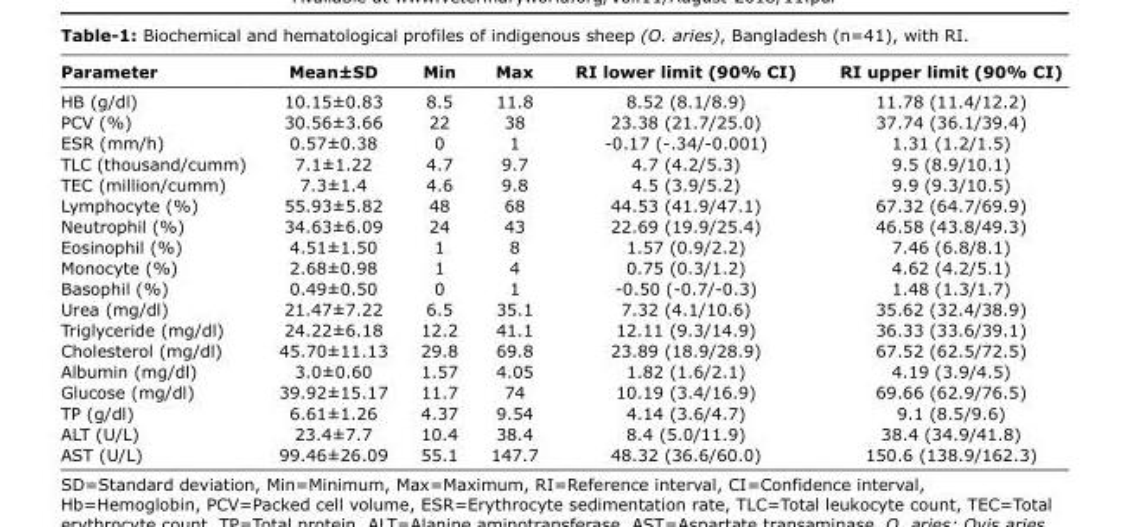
<table><thead><tr><td>Parameter</td><td>Mean±SD</td><td>Min</td><td>Max</td><td>RI lower limit (90% CI)</td><td>RI upper limit (90% CI)</td></tr></thead><tbody><tr><td>HB (g/dl)</td><td>10.15±0.83</td><td>8.5</td><td>11.8</td><td>8.52 (8.1/8.9)</td><td>11.78 (11.4/12.2)</td></tr><tr><td>PCV (%)</td><td>30.56±3.66</td><td>22</td><td>38</td><td>23.38 (21.7/25.0)</td><td>37.74 (36.1/39.4)</td></tr><tr><td>ESR (mm/h)</td><td>0.57±0.38</td><td>0</td><td>1</td><td>-0.17 (-.34/-0.001)</td><td>1.31 (1.2/1.5)</td></tr><tr><td>TLC (thousand/cumm)</td><td>7.1±1.22</td><td>4.7</td><td>9.7</td><td>4.7 (4.2/5.3)</td><td>9.5 (8.9/10.1)</td></tr><tr><td>TEC (million/cumm)</td><td>7.3±1.4</td><td>4.6</td><td>9.8</td><td>4.5 (3.9/5.2)</td><td>9.9 (9.3/10.5)</td></tr><tr><td>Lymphocyte (%)</td><td>55.93±5.82</td><td>48</td><td>68</td><td>44.53 (41.9/47.1)</td><td>67.32 (64.7/69.9)</td></tr><tr><td>Neutrophil (%)</td><td>34.63±6.09</td><td>24</td><td>43</td><td>22.69 (19.9/25.4)</td><td>46.58 (43.8/49.3)</td></tr><tr><td>Eosinophil (%)</td><td>4.51±1.50</td><td>1</td><td>8</td><td>1.57 (0.9/2.2)</td><td>7.46 (6.8/8.1)</td></tr><tr><td>Monocyte (%)</td><td>2.68±0.98</td><td>1</td><td>4</td><td>0.75 (0.3/1.2)</td><td>4.62 (4.2/5.1)</td></tr><tr><td>Basophil (%)</td><td>0.49±0.50</td><td>0</td><td>1</td><td>-0.50 (-0.7/-0.3)</td><td>1.48 (1.3/1.7)</td></tr><tr><td>Urea (mg/dl)</td><td>21.47±7.22</td><td>6.5</td><td>35.1</td><td>7.32 (4.1/10.6)</td><td>35.62 (32.4/38.9)</td></tr><tr><td>Triglyceride (mg/dl)</td><td>24.22±6.18</td><td>12.2</td><td>41.1</td><td>12.11 (9.3/14.9)</td><td>36.33 (33.6/39.1)</td></tr><tr><td>Cholesterol (mg/dl)</td><td>45.70±11.13</td><td>29.8</td><td>69.8</td><td>23.89 (18.9/28.9)</td><td>67.52 (62.5/72.5)</td></tr><tr><td>Albumin (mg/dl)</td><td>3.0±0.60</td><td>1.57</td><td>4.05</td><td>1.82 (1.6/2.1)</td><td>4.19 (3.9/4.5)</td></tr><tr><td>Glucose (mg/dl)</td><td>39.92±15.17</td><td>11.7</td><td>74</td><td>10.19 (3.4/16.9)</td><td>69.66 (62.9/76.5)</td></tr><tr><td>TP (g/dl)</td><td>6.61±1.26</td><td>4.37</td><td>9.54</td><td>4.14 (3.6/4.7)</td><td>9.1 (8.5/9.6)</td></tr><tr><td>ALT (U/L)</td><td>23.4±7.7</td><td>10.4</td><td>38.4</td><td>8.4 (5.0/11.9)</td><td>38.4 (34.9/41.8)</td></tr><tr><td>AST (U/L)</td><td>99.46±26.09</td><td>55.1</td><td>147.7</td><td>48.32 (36.6/60.0)</td><td>150.6 (138.9/162.3)</td></tr></tbody></table>